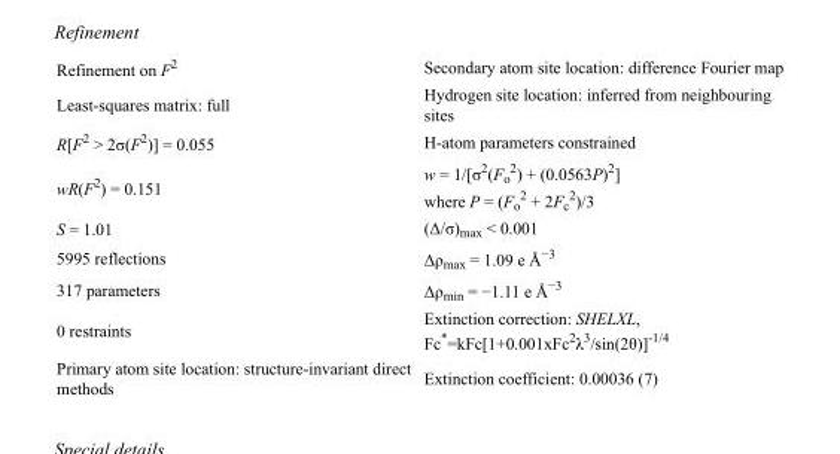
<table><tbody><tr><td>Refinement on F<sup>2</sup></td><td>Secondary atom site location: difference Fourier map</td></tr><tr><td>Least-squares matrix: full</td><td>Hydrogen site location: inferred from neighbouring sites</td></tr><tr><td>R[F<sup>2</sup> &gt; 2σ(F<sup>2</sup>)] = 0.055</td><td>H-atom parameters constrained</td></tr><tr><td>wR(F<sup>2</sup>) = 0.151</td><td>w = 1/[σ<sup>2</sup>(F<sub>o</sub> <sup>2</sup>) + (0.0563P)<sup>2</sup>] where P = (F<sub>o</sub> <sup>2</sup> + 2F<sub>c</sub> <sup>2</sup>)/3</td></tr><tr><td>S = 1.01</td><td>(Δ/σ)<sub>max</sub> &lt; 0.001</td></tr><tr><td>5995 reflections</td><td>Δρ<sub>max</sub> = 1.09 e Å<sup>−3</sup></td></tr><tr><td>317 parameters</td><td>Δρ<sub>min</sub> = −1.11 e Å<sup>−3</sup></td></tr><tr><td>0 restraints</td><td>Extinction correction: SHELXL, Fc*=kFc[1+0.001xFc<sup>2</sup>λ<sup>3</sup>/sin(2θ)]<sup>-1/4</sup></td></tr><tr><td>Primary atom site location: structure-invariant direct methods</td><td>Extinction coefficient: 0.00036 (7)</td></tr></tbody></table>